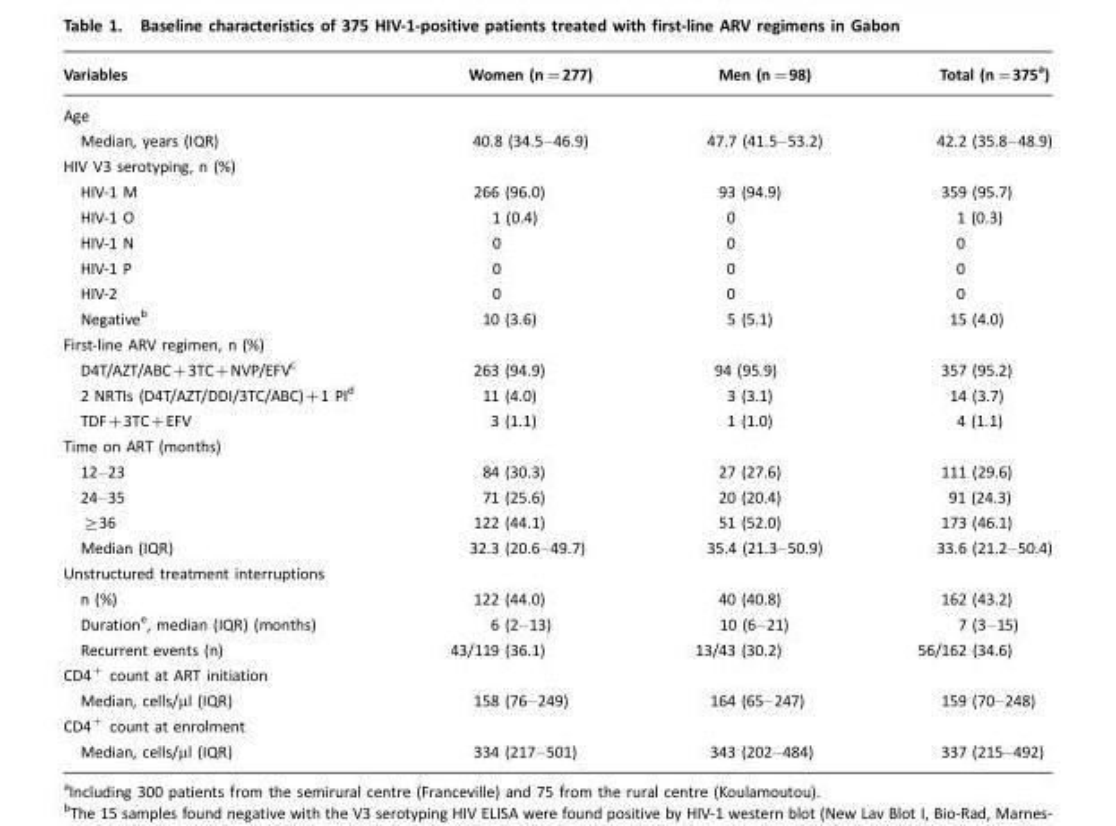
<table><thead><tr><td>Variables</td><td>Women (n=277)</td><td>Men (n=98)</td><td>Total (n=375<sup>a</sup>)</td></tr></thead><tbody><tr><td colspan="4">Age</td></tr><tr><td>Median, years (IQR)</td><td>40.8 (34.5–46.9)</td><td>47.7 (41.5–53.2)</td><td>42.2 (35.8–48.9)</td></tr><tr><td colspan="4">HIV V3 serotyping, n (%)</td></tr><tr><td>HIV-1 M</td><td>266 (96.0)</td><td>93 (94.9)</td><td>359 (95.7)</td></tr><tr><td>HIV-1 O</td><td>1 (0.4)</td><td>0</td><td>1 (0.3)</td></tr><tr><td>HIV-1 N</td><td>0</td><td>0</td><td>0</td></tr><tr><td>HIV-1 P</td><td>0</td><td>0</td><td>0</td></tr><tr><td>HIV-2</td><td>0</td><td>0</td><td>0</td></tr><tr><td>Negative<sup>b</sup></td><td>10 (3.6)</td><td>5 (5.1)</td><td>15 (4.0)</td></tr><tr><td colspan="4">First-line ARV regimen, n (%)</td></tr><tr><td>D4T/AZT/ABC+3TC+NVP/EFV<sup>c</sup></td><td>263 (94.9)</td><td>94 (95.9)</td><td>357 (95.2)</td></tr><tr><td>2 NRTIs (D4T/AZT/DDI/3TC/ABC)+1 PI<sup>d</sup></td><td>11 (4.0)</td><td>3 (3.1)</td><td>14 (3.7)</td></tr><tr><td>TDF+3TC+EFV</td><td>3 (1.1)</td><td>1 (1.0)</td><td>4 (1.1)</td></tr><tr><td colspan="4">Time on ART (months)</td></tr><tr><td>12–23</td><td>84 (30.3)</td><td>27 (27.6)</td><td>111 (29.6)</td></tr><tr><td>24–35</td><td>71 (25.6)</td><td>20 (20.4)</td><td>91 (24.3)</td></tr><tr><td>≥36</td><td>122 (44.1)</td><td>51 (52.0)</td><td>173 (46.1)</td></tr><tr><td>Median (IQR)</td><td>32.3 (20.6–49.7)</td><td>35.4 (21.3–50.9)</td><td>33.6 (21.2–50.4)</td></tr><tr><td colspan="4">Unstructured treatment interruptions</td></tr><tr><td>n (%)</td><td>122 (44.0)</td><td>40 (40.8)</td><td>162 (43.2)</td></tr><tr><td>Duration<sup>e</sup>, median (IQR) (months)</td><td>6 (2–13)</td><td>10 (6–21)</td><td>7 (3–15)</td></tr><tr><td>Recurrent events (n)</td><td>43/119 (36.1)</td><td>13/43 (30.2)</td><td>56/162 (34.6)</td></tr><tr><td colspan="4">CD4<sup>+</sup> count at ART initiation</td></tr><tr><td>Median, cells/µl (IQR)</td><td>158 (76–249)</td><td>164 (65–247)</td><td>159 (70–248)</td></tr><tr><td colspan="4">CD4<sup>+</sup> count at enrolment</td></tr><tr><td>Median, cells/µl (IQR)</td><td>334 (217–501)</td><td>343 (202–484)</td><td>337 (215–492)</td></tr></tbody></table>